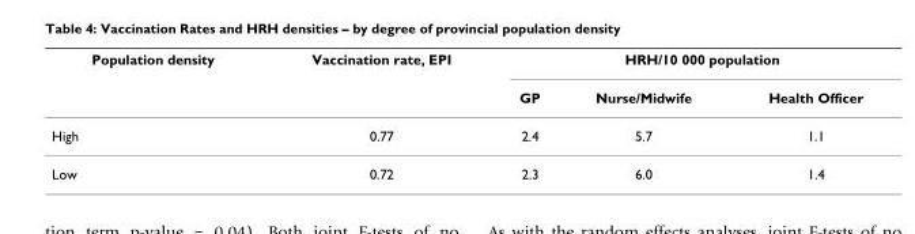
<table><thead><tr><td rowspan="2">Population density</td><td rowspan="2">Vaccination rate, EPI</td><td colspan="3">HRH/10 000 population</td></tr><tr><td>GP</td><td>Nurse/Midwife</td><td>Health Officer</td></tr></thead><tbody><tr><td>High</td><td>0.77</td><td>2.4</td><td>5.7</td><td>1.1</td></tr><tr><td>Low</td><td>0.72</td><td>2.3</td><td>6.0</td><td>1.4</td></tr></tbody></table>